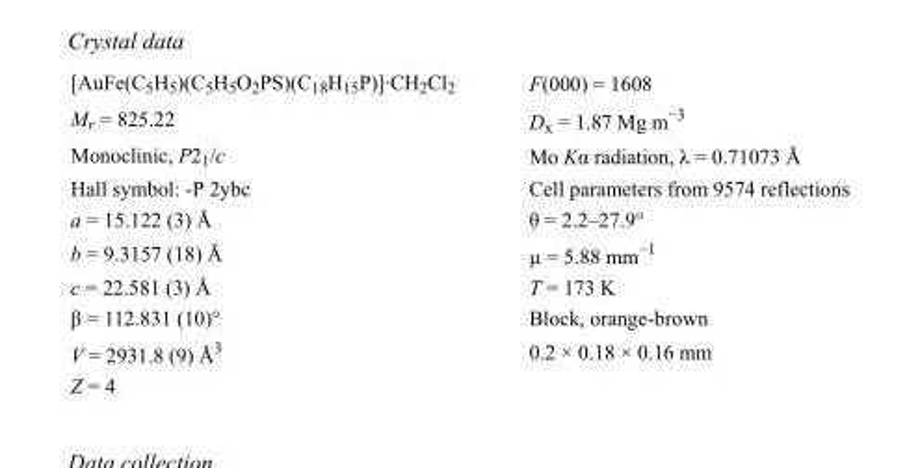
<table><tbody><tr><td>[AuFe(C<sub>5</sub>H<sub>5</sub>)(C<sub>5</sub>H<sub>5</sub>O<sub>2</sub>PS)(C<sub>18</sub>H<sub>15</sub>P)]·CH<sub>2</sub>Cl<sub>2</sub></td><td>F(000) = 1608</td></tr><tr><td>M<sub>r</sub> = 825.22</td><td>D<sub>x</sub> = 1.87 Mg m<sup>−3</sup></td></tr><tr><td>Monoclinic, P2<sub>1</sub>/c</td><td>Mo Kα radiation, λ = 0.71073 Å</td></tr><tr><td>Hall symbol: -P 2ybc</td><td>Cell parameters from 9574 reflections</td></tr><tr><td>a = 15.122 (3) Å</td><td>θ = 2.2–27.9°</td></tr><tr><td>b = 9.3157 (18) Å</td><td>µ = 5.88 mm<sup>−1</sup></td></tr><tr><td>c = 22.581 (3) Å</td><td>T = 173 K</td></tr><tr><td>β = 112.831 (10)°</td><td>Block, orange-brown</td></tr><tr><td>V = 2931.8 (9) Å<sup>3</sup></td><td>0.2 × 0.18 × 0.16 mm</td></tr><tr><td>Z = 4</td><td></td></tr></tbody></table>